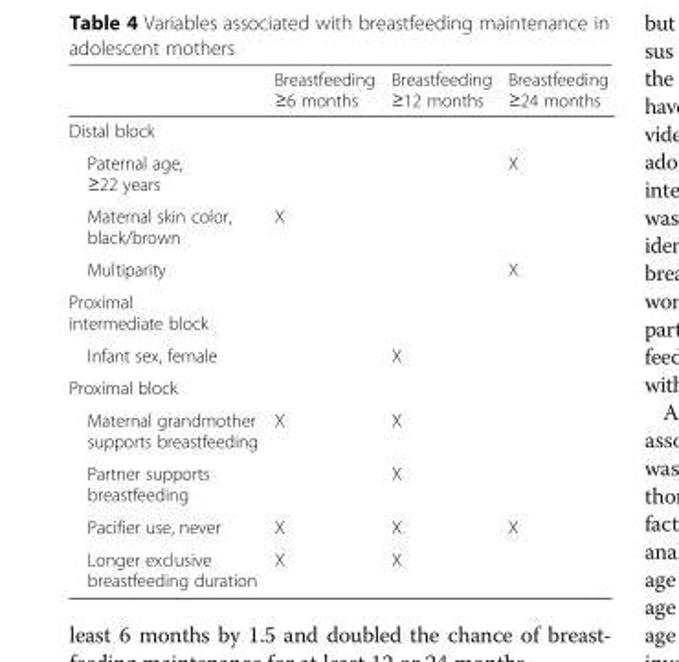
<table><thead><tr><td></td><td>Breastfeeding ≥6 months</td><td>Breastfeeding ≥12 months</td><td>Breastfeeding ≥24 months</td></tr></thead><tbody><tr><td colspan="4">Distal block</td></tr><tr><td>Paternal age, ≥22 years</td><td></td><td></td><td>X</td></tr><tr><td>Maternal skin color, black/brown</td><td>X</td><td></td><td></td></tr><tr><td>Multiparity</td><td></td><td></td><td>X</td></tr><tr><td colspan="4">Proximal intermediate block</td></tr><tr><td>Infant sex, female</td><td></td><td>X</td><td></td></tr><tr><td colspan="4">Proximal block</td></tr><tr><td>Maternal grandmother supports breastfeeding</td><td>X</td><td>X</td><td></td></tr><tr><td>Partner supports breastfeeding</td><td></td><td>X</td><td></td></tr><tr><td>Pacifier use, never</td><td>X</td><td>X</td><td>X</td></tr><tr><td>Longer exclusive breastfeeding duration</td><td>X</td><td>X</td><td></td></tr></tbody></table>